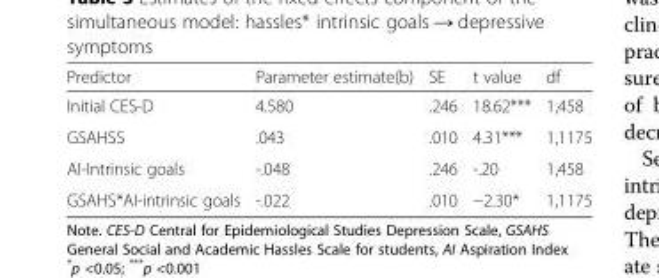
<table><thead><tr><td>Predictor</td><td>Parameter estimate(b)</td><td>SE</td><td>t value</td><td>df</td></tr></thead><tbody><tr><td>Initial CES-D</td><td>4.580</td><td>.246</td><td>18.62***</td><td>1,458</td></tr><tr><td>GSAHSS</td><td>.043</td><td>.010</td><td>4.31***</td><td>1,1175</td></tr><tr><td>AI-Intrinsic goals</td><td>-.048</td><td>.246</td><td>-.20</td><td>1,458</td></tr><tr><td>GSAHS*AI-intrinsic goals</td><td>-.022</td><td>.010</td><td>−2.30*</td><td>1,1175</td></tr></tbody></table>